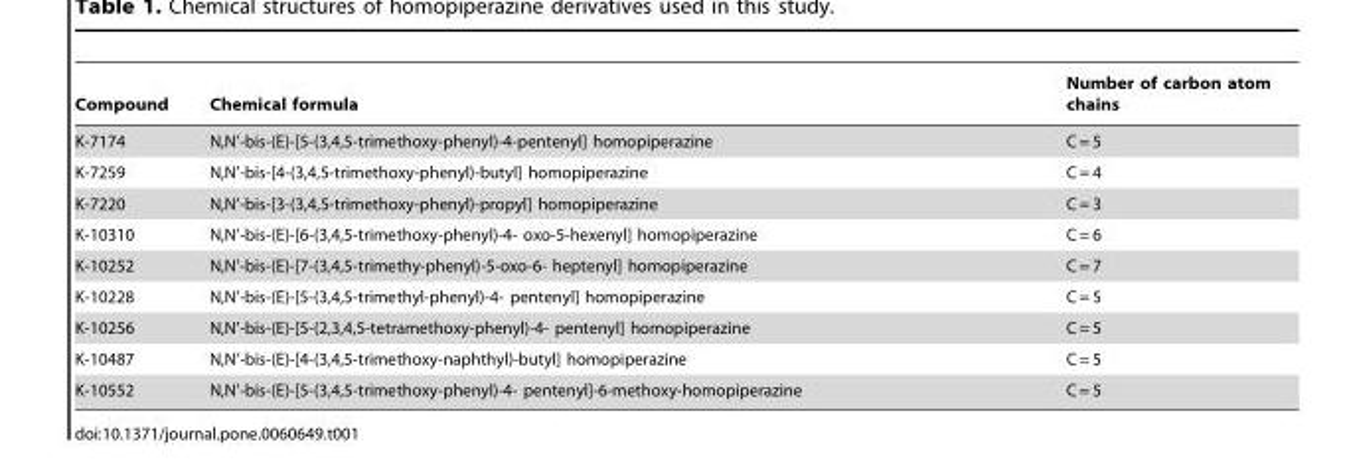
<table><thead><tr><td>Compound</td><td>Chemical formula</td><td>Number of carbon atom chains</td></tr></thead><tbody><tr><td>K-7174</td><td>N,N’-bis-(E)-[5-(3,4,5-trimethoxy-phenyl)-4-pentenyl] homopiperazine</td><td>C = 5</td></tr><tr><td>K-7259</td><td>N,N’-bis-[4-(3,4,5-trimethoxy-phenyl)-butyl] homopiperazine</td><td>C = 4</td></tr><tr><td>K-7220</td><td>N,N’-bis-[3-(3,4,5-trimethoxy-phenyl)-propyl] homopiperazine</td><td>C = 3</td></tr><tr><td>K-10310</td><td>N,N’-bis-(E)-[6-(3,4,5-trimethoxy-phenyl)-4- oxo-5-hexenyl] homopiperazine</td><td>C = 6</td></tr><tr><td>K-10252</td><td>N,N’-bis-(E)-[7-(3,4,5-trimethy-phenyl)-5-oxo-6- heptenyl] homopiperazine</td><td>C = 7</td></tr><tr><td>K-10228</td><td>N,N’-bis-(E)-[5-(3,4,5-trimethyl-phenyl)-4- pentenyl] homopiperazine</td><td>C = 5</td></tr><tr><td>K-10256</td><td>N,N’-bis-(E)-[5-(2,3,4,5-tetramethoxy-phenyl)-4- pentenyl] homopiperazine</td><td>C = 5</td></tr><tr><td>K-10487</td><td>N,N’-bis-(E)-[4-(3,4,5-trimethoxy-naphthyl)-butyl] homopiperazine</td><td>C = 5</td></tr><tr><td>K-10552</td><td>N,N’-bis-(E)-[5-(3,4,5-trimethoxy-phenyl)-4- pentenyl]-6-methoxy-homopiperazine</td><td>C = 5</td></tr></tbody></table>